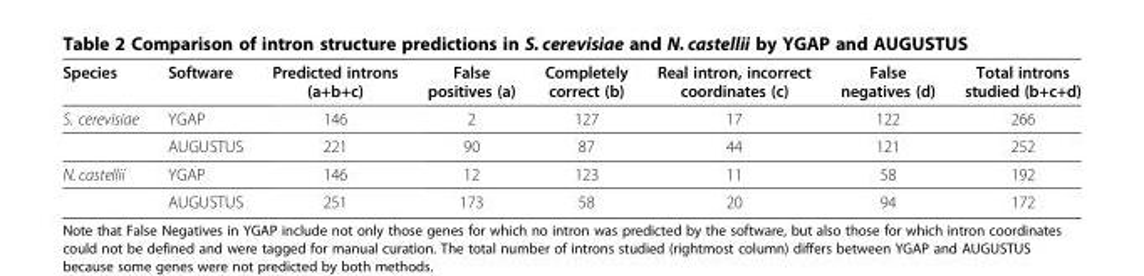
<table><thead><tr><td>Species</td><td>Software</td><td>Predicted introns (a+b+c)</td><td>False positives (a)</td><td>Completely correct (b)</td><td>Real intron, incorrect coordinates (c)</td><td>False negatives (d)</td><td>Total introns studied (b+c+d)</td></tr></thead><tbody><tr><td rowspan="2">S. cerevisiae</td><td>YGAP</td><td>146</td><td>2</td><td>127</td><td>17</td><td>122</td><td>266</td></tr><tr><td>AUGUSTUS</td><td>221</td><td>90</td><td>87</td><td>44</td><td>121</td><td>252</td></tr><tr><td rowspan="2">N. castellii</td><td>YGAP</td><td>146</td><td>12</td><td>123</td><td>11</td><td>58</td><td>192</td></tr><tr><td>AUGUSTUS</td><td>251</td><td>173</td><td>58</td><td>20</td><td>94</td><td>172</td></tr></tbody></table>